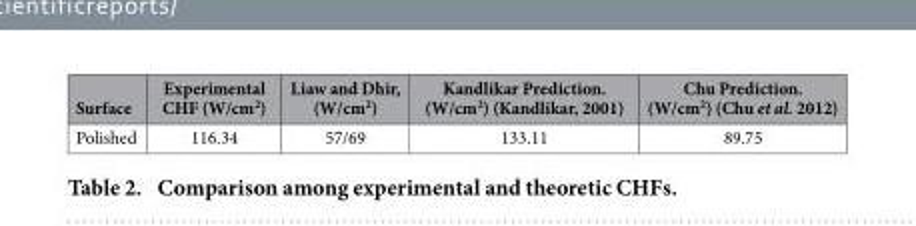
<table><thead><tr><td>Surface</td><td>Experimental CHF (W/cm<sup>2</sup>)</td><td>Liaw and Dhir, (W/cm<sup>2</sup>)</td><td>Kandlikar Prediction. (W/cm<sup>2</sup>) (Kandlikar, 2001)</td><td>Chu Prediction. (W/cm<sup>2</sup>) (Chu et al. 2012)</td></tr></thead><tbody><tr><td>Polished</td><td>116.34</td><td>57/69</td><td>133.11</td><td>89.75</td></tr></tbody></table>